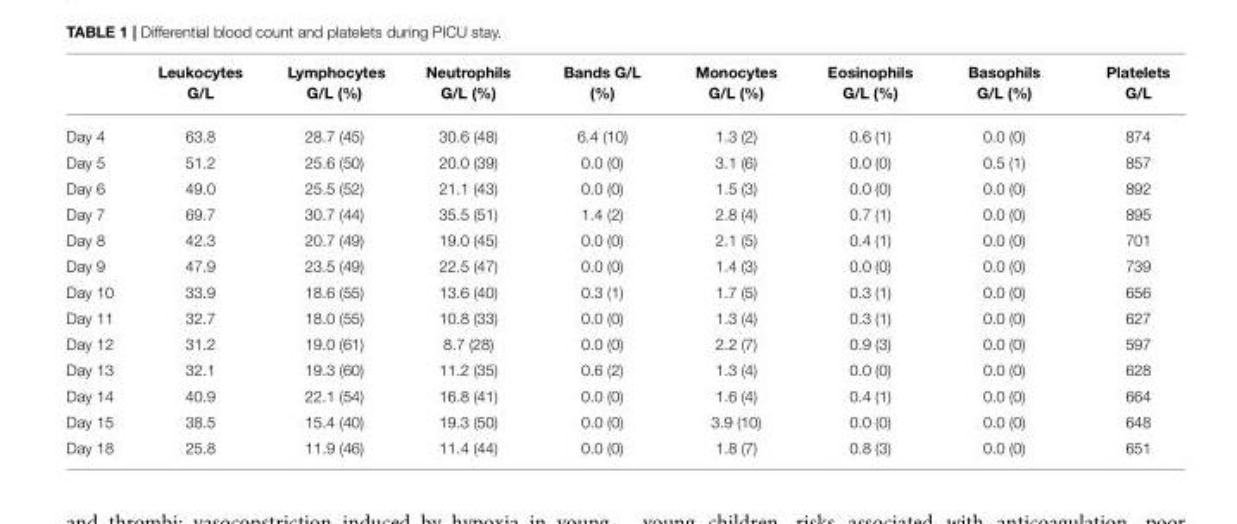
<table><thead><tr><td></td><td>Leukocytes G/L</td><td>Lymphocytes G/L (%)</td><td>Neutrophils G/L (%)</td><td>Bands G/L (%)</td><td>Monocytes G/L (%)</td><td>Eosinophils G/L (%)</td><td>Basophils G/L (%)</td><td>Platelets G/L</td></tr></thead><tbody><tr><td>Day 4</td><td>63.8</td><td>28.7 (45)</td><td>30.6 (48)</td><td>6.4 (10)</td><td>1.3 (2)</td><td>0.6 (1)</td><td>0.0 (0)</td><td>874</td></tr><tr><td>Day 5</td><td>51.2</td><td>25.6 (50)</td><td>20.0 (39)</td><td>0.0 (0)</td><td>3.1 (6)</td><td>0.0 (0)</td><td>0.5 (1)</td><td>857</td></tr><tr><td>Day 6</td><td>49.0</td><td>25.5 (52)</td><td>21.1 (43)</td><td>0.0 (0)</td><td>1.5 (3)</td><td>0.0 (0)</td><td>0.0 (0)</td><td>892</td></tr><tr><td>Day 7</td><td>69.7</td><td>30.7 (44)</td><td>35.5 (51)</td><td>1.4 (2)</td><td>2.8 (4)</td><td>0.7 (1)</td><td>0.0 (0)</td><td>895</td></tr><tr><td>Day 8</td><td>42.3</td><td>20.7 (49)</td><td>19.0 (45)</td><td>0.0 (0)</td><td>2.1 (5)</td><td>0.4 (1)</td><td>0.0 (0)</td><td>701</td></tr><tr><td>Day 9</td><td>47.9</td><td>23.5 (49)</td><td>22.5 (47)</td><td>0.0 (0)</td><td>1.4 (3)</td><td>0.0 (0)</td><td>0.0 (0)</td><td>739</td></tr><tr><td>Day 10</td><td>33.9</td><td>18.6 (55)</td><td>13.6 (40)</td><td>0.3 (1)</td><td>1.7 (5)</td><td>0.3 (1)</td><td>0.0 (0)</td><td>656</td></tr><tr><td>Day 11</td><td>32.7</td><td>18.0 (55)</td><td>10.8 (33)</td><td>0.0 (0)</td><td>1.3 (4)</td><td>0.3 (1)</td><td>0.0 (0)</td><td>627</td></tr><tr><td>Day 12</td><td>31.2</td><td>19.0 (61)</td><td>8.7 (28)</td><td>0.0 (0)</td><td>2.2 (7)</td><td>0.9 (3)</td><td>0.0 (0)</td><td>597</td></tr><tr><td>Day 13</td><td>32.1</td><td>19.3 (60)</td><td>11.2 (35)</td><td>0.6 (2)</td><td>1.3 (4)</td><td>0.0 (0)</td><td>0.0 (0)</td><td>628</td></tr><tr><td>Day 14</td><td>40.9</td><td>22.1 (54)</td><td>16.8 (41)</td><td>0.0 (0)</td><td>1.6 (4)</td><td>0.4 (1)</td><td>0.0 (0)</td><td>664</td></tr><tr><td>Day 15</td><td>38.5</td><td>15.4 (40)</td><td>19.3 (50)</td><td>0.0 (0)</td><td>3.9 (10)</td><td>0.0 (0)</td><td>0.0 (0)</td><td>648</td></tr><tr><td>Day 18</td><td>25.8</td><td>11.9 (46)</td><td>11.4 (44)</td><td>0.0 (0)</td><td>1.8 (7)</td><td>0.8 (3)</td><td>0.0 (0)</td><td>651</td></tr></tbody></table>